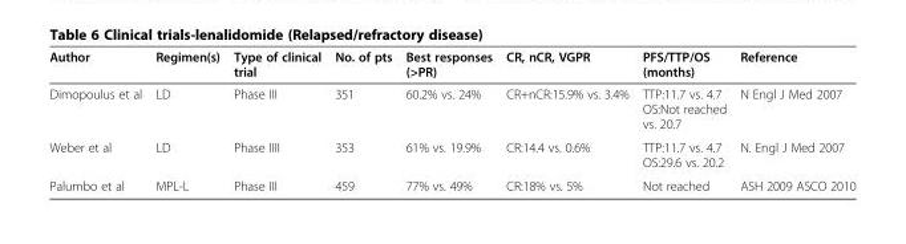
<table><thead><tr><td>Author</td><td>Regimen(s)</td><td>Type of clinical trial</td><td>No. of pts</td><td>Best responses (&gt;PR)</td><td>CR, nCR, VGPR</td><td>PFS/TTP/OS (months)</td><td>Reference</td></tr></thead><tbody><tr><td>Dimopoulus et al</td><td>LD</td><td>Phase III</td><td>351</td><td>60.2% vs. 24%</td><td>CR+nCR:15.9% vs. 3.4%</td><td>TTP:11.7 vs. 4.7 OS:Not reached vs. 20.7</td><td>N Engl J Med 2007</td></tr><tr><td>Weber et al</td><td>LD</td><td>Phase IIII</td><td>353</td><td>61% vs. 19.9%</td><td>CR:14.4 vs. 0.6%</td><td>TTP:11.7 vs. 4.7 OS:29.6 vs. 20.2</td><td>N. Engl J Med 2007</td></tr><tr><td>Palumbo et al</td><td>MPL-L</td><td>Phase III</td><td>459</td><td>77% vs. 49%</td><td>CR:18% vs. 5%</td><td>Not reached</td><td>ASH 2009 ASCO 2010</td></tr></tbody></table>